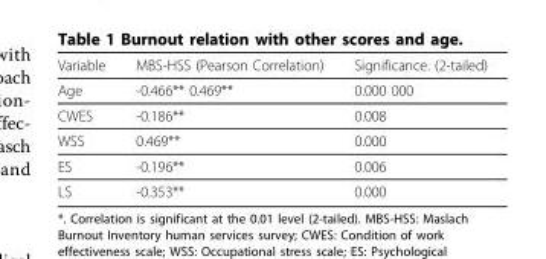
<table><thead><tr><td>Variable</td><td>MBS-HSS (Pearson Correlation)</td><td>Significance. (2-tailed)</td></tr></thead><tbody><tr><td>Age</td><td>-0.466** 0.469**</td><td>0.000 000</td></tr><tr><td>CWES</td><td>-0.186**</td><td>0.008</td></tr><tr><td>WSS</td><td>0.469**</td><td>0.000</td></tr><tr><td>ES</td><td>-0.196**</td><td>0.006</td></tr><tr><td>LS</td><td>-0.353**</td><td>0.000</td></tr></tbody></table>